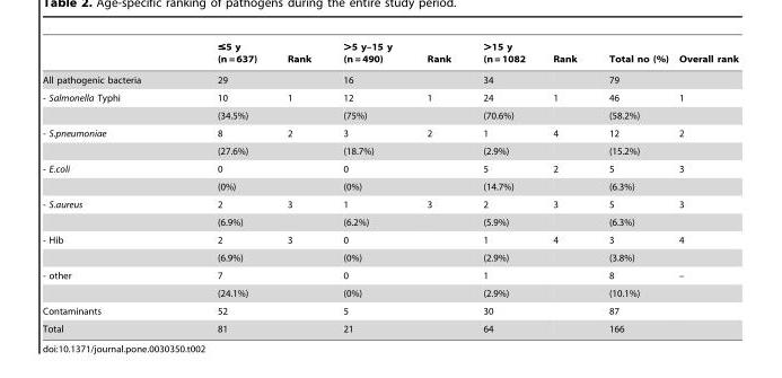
<table><thead><tr><td></td><td>≤5 y (n = 637)</td><td>Rank</td><td>&gt;5 y–15 y (n = 490)</td><td>Rank</td><td>&gt;15 y (n = 1082</td><td>Rank</td><td>Total no (%)</td><td>Overall rank</td></tr></thead><tbody><tr><td>All pathogenic bacteria</td><td>29</td><td></td><td>16</td><td></td><td>34</td><td></td><td>79</td><td></td></tr><tr><td rowspan="2">- Salmonella Typhi</td><td>10</td><td>1</td><td>12</td><td>1</td><td>24</td><td>1</td><td>46</td><td>1</td></tr><tr><td>(34.5%)</td><td></td><td>(75%)</td><td></td><td>(70.6%)</td><td></td><td>(58.2%)</td><td></td></tr><tr><td rowspan="2">- S.pneumoniae</td><td>8</td><td>2</td><td>3</td><td>2</td><td>1</td><td>4</td><td>12</td><td>2</td></tr><tr><td>(27.6%)</td><td></td><td>(18.7%)</td><td></td><td>(2.9%)</td><td></td><td>(15.2%)</td><td></td></tr><tr><td rowspan="2">- E.coli</td><td>0</td><td></td><td>0</td><td></td><td>5</td><td>2</td><td>5</td><td>3</td></tr><tr><td>(0%)</td><td></td><td>(0%)</td><td></td><td>(14.7%)</td><td></td><td>(6.3%)</td><td></td></tr><tr><td rowspan="2">- S.aureus</td><td>2</td><td>3</td><td>1</td><td>3</td><td>2</td><td>3</td><td>5</td><td>3</td></tr><tr><td>(6.9%)</td><td></td><td>(6.2%)</td><td></td><td>(5.9%)</td><td></td><td>(6.3%)</td><td></td></tr><tr><td rowspan="2">- Hib</td><td>2</td><td>3</td><td>0</td><td></td><td>1</td><td>4</td><td>3</td><td>4</td></tr><tr><td>(6.9%)</td><td></td><td>(0%)</td><td></td><td>(2.9%)</td><td></td><td>(3.8%)</td><td></td></tr><tr><td rowspan="2">- other</td><td>7</td><td></td><td>0</td><td></td><td>1</td><td></td><td>8</td><td>–</td></tr><tr><td>(24.1%)</td><td></td><td>(0%)</td><td></td><td>(2.9%)</td><td></td><td>(10.1%)</td><td></td></tr><tr><td>Contaminants</td><td>52</td><td></td><td>5</td><td></td><td>30</td><td></td><td>87</td><td></td></tr><tr><td>Total</td><td>81</td><td></td><td>21</td><td></td><td>64</td><td></td><td>166</td><td></td></tr></tbody></table>